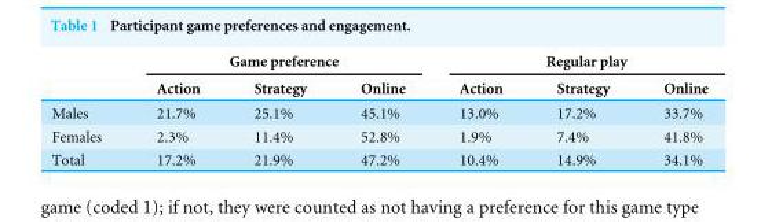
<table><thead><tr><td rowspan="2"></td><td colspan="3">Game preference</td><td colspan="3">Regular play</td></tr><tr><td>Action</td><td>Strategy</td><td>Online</td><td>Action</td><td>Strategy</td><td>Online</td></tr></thead><tbody><tr><td>Males</td><td>21.7%</td><td>25.1%</td><td>45.1%</td><td>13.0%</td><td>17.2%</td><td>33.7%</td></tr><tr><td>Females</td><td>2.3%</td><td>11.4%</td><td>52.8%</td><td>1.9%</td><td>7.4%</td><td>41.8%</td></tr><tr><td>Total</td><td>17.2%</td><td>21.9%</td><td>47.2%</td><td>10.4%</td><td>14.9%</td><td>34.1%</td></tr></tbody></table>